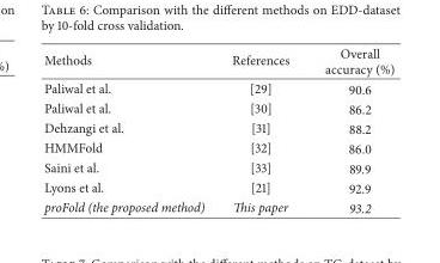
<table><thead><tr><td>Methods</td><td>References</td><td>Overall accuracy (%)</td></tr></thead><tbody><tr><td>Paliwal et al.</td><td>[29]</td><td>90.6</td></tr><tr><td>Paliwal et al.</td><td>[30]</td><td>86.2</td></tr><tr><td>Dehzangi et al.</td><td>[31]</td><td>88.2</td></tr><tr><td>HMMFold</td><td>[32]</td><td>86.0</td></tr><tr><td>Saini et al.</td><td>[33]</td><td>89.9</td></tr><tr><td>Lyons et al.</td><td>[21]</td><td>92.9</td></tr><tr><td>proFold (the proposed method)</td><td>This paper</td><td>93.2</td></tr></tbody></table>